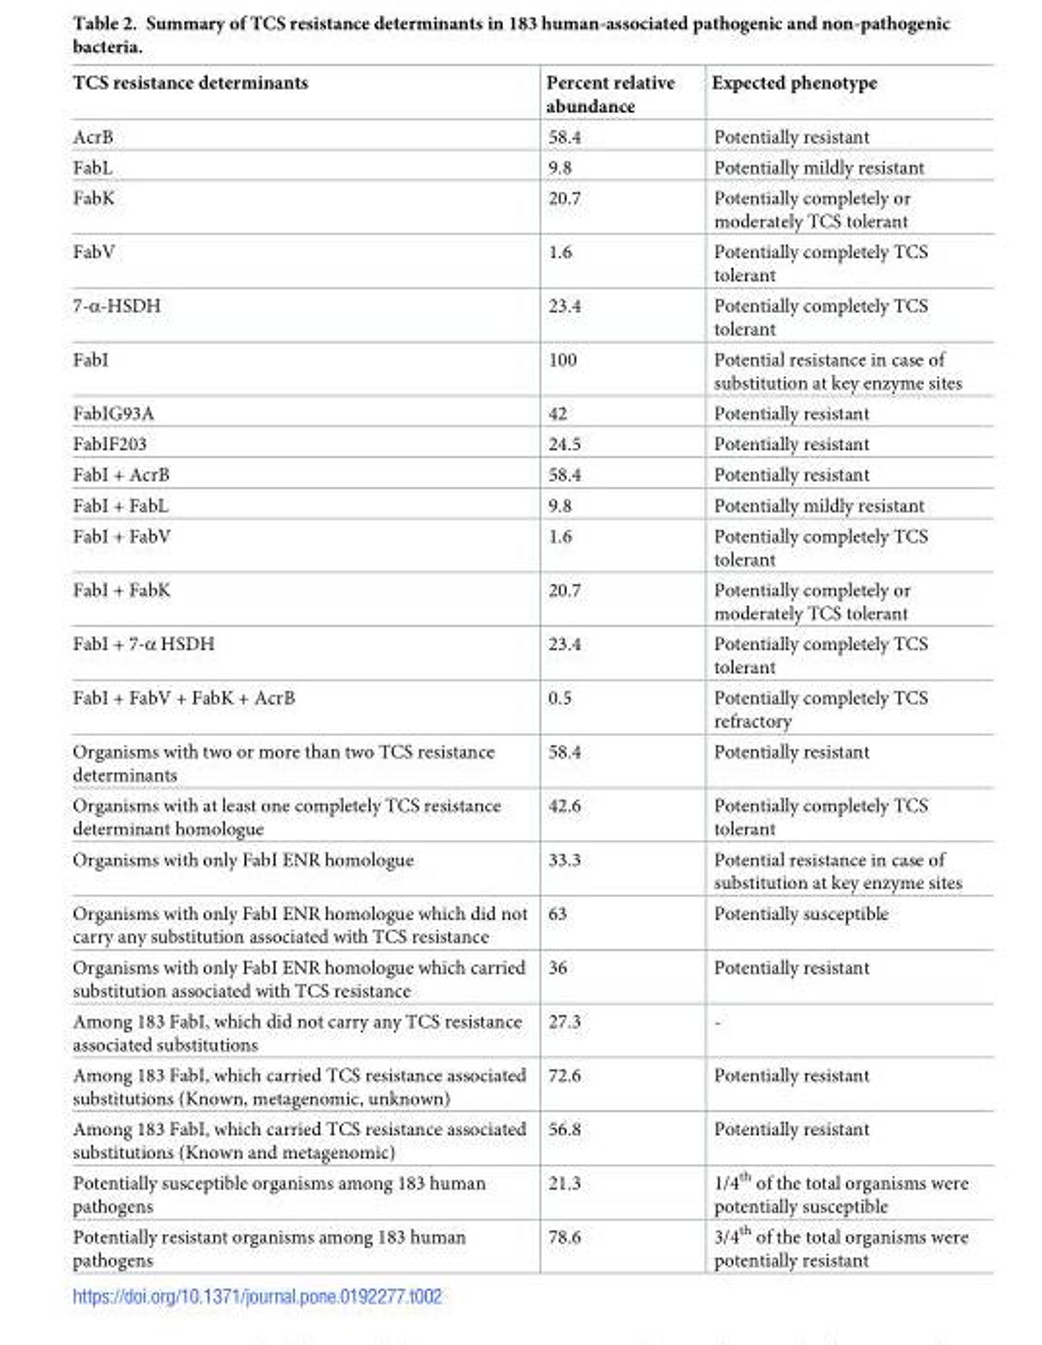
<table><thead><tr><td>TCS resistance determinants</td><td>Percent relative abundance</td><td>Expected phenotype</td></tr></thead><tbody><tr><td>AcrB</td><td>58.4</td><td>Potentially resistant</td></tr><tr><td>FabL</td><td>9.8</td><td>Potentially mildly resistant</td></tr><tr><td>FabK</td><td>20.7</td><td>Potentially completely or moderately TCS tolerant</td></tr><tr><td>FabV</td><td>1.6</td><td>Potentially completely TCS tolerant</td></tr><tr><td>7-α-HSDH</td><td>23.4</td><td>Potentially completely TCS tolerant</td></tr><tr><td>FabI</td><td>100</td><td>Potential resistance in case of substitution at key enzyme sites</td></tr><tr><td>FabIG93A</td><td>42</td><td>Potentially resistant</td></tr><tr><td>FabIF203</td><td>24.5</td><td>Potentially resistant</td></tr><tr><td>FabI + AcrB</td><td>58.4</td><td>Potentially resistant</td></tr><tr><td>FabI + FabL</td><td>9.8</td><td>Potentially mildly resistant</td></tr><tr><td>FabI + FabV</td><td>1.6</td><td>Potentially completely TCS tolerant</td></tr><tr><td>FabI + FabK</td><td>20.7</td><td>Potentially completely or moderately TCS tolerant</td></tr><tr><td>FabI + 7-α HSDH</td><td>23.4</td><td>Potentially completely TCS tolerant</td></tr><tr><td>FabI + FabV + FabK + AcrB</td><td>0.5</td><td>Potentially completely TCS refractory</td></tr><tr><td>Organisms with two or more than two TCS resistance determinants</td><td>58.4</td><td>Potentially resistant</td></tr><tr><td>Organisms with at least one completely TCS resistance determinant homologue</td><td>42.6</td><td>Potentially completely TCS tolerant</td></tr><tr><td>Organisms with only FabI ENR homologue</td><td>33.3</td><td>Potential resistance in case of substitution at key enzyme sites</td></tr><tr><td>Organisms with only FabI ENR homologue which did not carry any substitution associated with TCS resistance</td><td>63</td><td>Potentially susceptible</td></tr><tr><td>Organisms with only FabI ENR homologue which carried substitution associated with TCS resistance</td><td>36</td><td>Potentially resistant</td></tr><tr><td>Among 183 FabI, which did not carry any TCS resistance associated substitutions</td><td>27.3</td><td>-</td></tr><tr><td>Among 183 FabI, which carried TCS resistance associated substitutions (Known, metagenomic, unknown)</td><td>72.6</td><td>Potentially resistant</td></tr><tr><td>Among 183 FabI, which carried TCS resistance associated substitutions (Known and metagenomic)</td><td>56.8</td><td>Potentially resistant</td></tr><tr><td>Potentially susceptible organisms among 183 human pathogens</td><td>21.3</td><td>1/4<sup>th</sup> of the total organisms were potentially susceptible</td></tr><tr><td>Potentially resistant organisms among 183 human pathogens</td><td>78.6</td><td>3/4<sup>th</sup> of the total organisms were potentially resistant</td></tr></tbody></table>